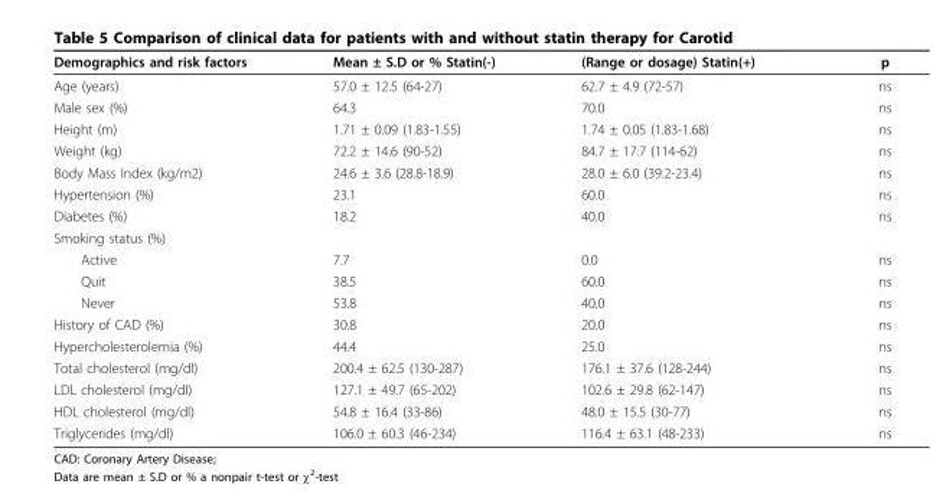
<table><thead><tr><td>Demographics and risk factors</td><td>Mean ± S.D or % Statin(-)</td><td>(Range or dosage) Statin(+)</td><td>p</td></tr></thead><tbody><tr><td>Age (years)</td><td>57.0 ± 12.5 (64-27)</td><td>62.7 ± 4.9 (72-57)</td><td>ns</td></tr><tr><td>Male sex (%)</td><td>64.3</td><td>70.0</td><td>ns</td></tr><tr><td>Height (m)</td><td>1.71 ± 0.09 (1.83-1.55)</td><td>1.74 ± 0.05 (1.83-1.68)</td><td>ns</td></tr><tr><td>Weight (kg)</td><td>72.2 ± 14.6 (90-52)</td><td>84.7 ± 17.7 (114-62)</td><td>ns</td></tr><tr><td>Body Mass Index (kg/m2)</td><td>24.6 ± 3.6 (28.8-18.9)</td><td>28.0 ± 6.0 (39.2-23.4)</td><td>ns</td></tr><tr><td>Hypertension (%)</td><td>23.1</td><td>60.0</td><td>ns</td></tr><tr><td>Diabetes (%)</td><td>18.2</td><td>40.0</td><td>ns</td></tr><tr><td colspan="4">Smoking status (%)</td></tr><tr><td>Active</td><td>7.7</td><td>0.0</td><td>ns</td></tr><tr><td>Quit</td><td>38.5</td><td>60.0</td><td>ns</td></tr><tr><td>Never</td><td>53.8</td><td>40.0</td><td>ns</td></tr><tr><td>History of CAD (%)</td><td>30.8</td><td>20.0</td><td>ns</td></tr><tr><td>Hypercholesterolemia (%)</td><td>44.4</td><td>25.0</td><td>ns</td></tr><tr><td>Total cholesterol (mg/dl)</td><td>200.4 ± 62.5 (130-287)</td><td>176.1 ± 37.6 (128-244)</td><td>ns</td></tr><tr><td>LDL cholesterol (mg/dl)</td><td>127.1 ± 49.7 (65-202)</td><td>102.6 ± 29.8 (62-147)</td><td>ns</td></tr><tr><td>HDL cholesterol (mg/dl)</td><td>54.8 ± 16.4 (33-86)</td><td>48.0 ± 15.5 (30-77)</td><td>ns</td></tr><tr><td>Triglycerides (mg/dl)</td><td>106.0 ± 60.3 (46-234)</td><td>116.4 ± 63.1 (48-233)</td><td>ns</td></tr></tbody></table>